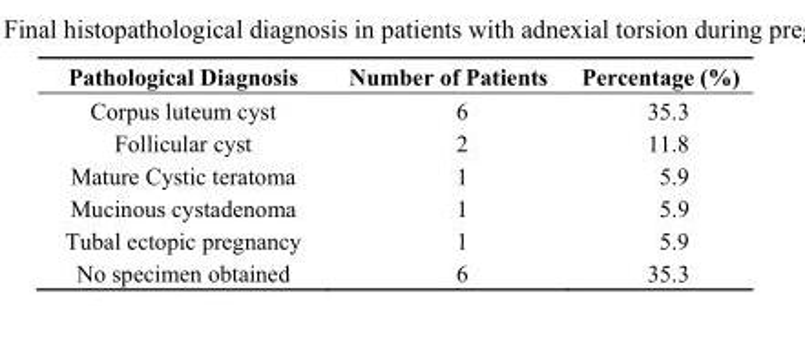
<table><thead><tr><td>Pathological Diagnosis</td><td>Number of Patients</td><td>Percentage (%)</td></tr></thead><tbody><tr><td>Corpus luteum cyst</td><td>6</td><td>35.3</td></tr><tr><td>Follicular cyst</td><td>2</td><td>11.8</td></tr><tr><td>Mature Cystic teratoma</td><td>1</td><td>5.9</td></tr><tr><td>Mucinous cystadenoma</td><td>1</td><td>5.9</td></tr><tr><td>Tubal ectopic pregnancy</td><td>1</td><td>5.9</td></tr><tr><td>No specimen obtained</td><td>6</td><td>35.3</td></tr></tbody></table>